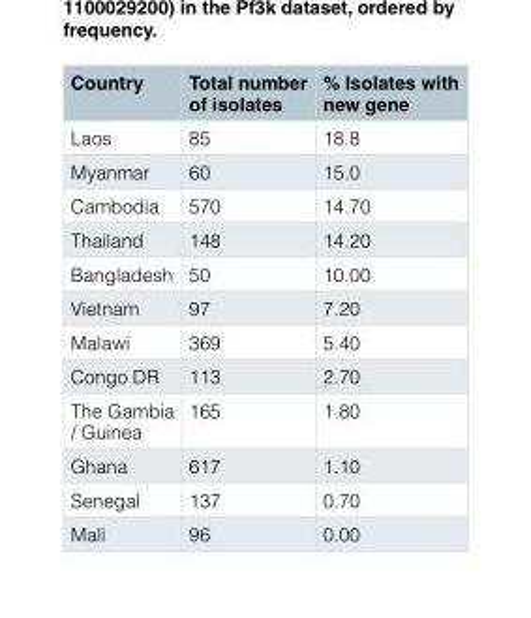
<table><thead><tr><td>Country</td><td>Total number of isolates</td><td>% Isolates with new gene</td></tr></thead><tbody><tr><td>Laos</td><td>85</td><td>18.8</td></tr><tr><td>Myanmar</td><td>60</td><td>15.0</td></tr><tr><td>Cambodia</td><td>570</td><td>14.70</td></tr><tr><td>Thailand</td><td>148</td><td>14.20</td></tr><tr><td>Bangladesh</td><td>50</td><td>10.00</td></tr><tr><td>Vietnam</td><td>97</td><td>7.20</td></tr><tr><td>Malawi</td><td>369</td><td>5.40</td></tr><tr><td>Congo DR</td><td>113</td><td>2.70</td></tr><tr><td>The Gambia / Guinea</td><td>165</td><td>1.80</td></tr><tr><td>Ghana</td><td>617</td><td>1.10</td></tr><tr><td>Senegal</td><td>137</td><td>0.70</td></tr><tr><td>Mali</td><td>96</td><td>0.00</td></tr></tbody></table>